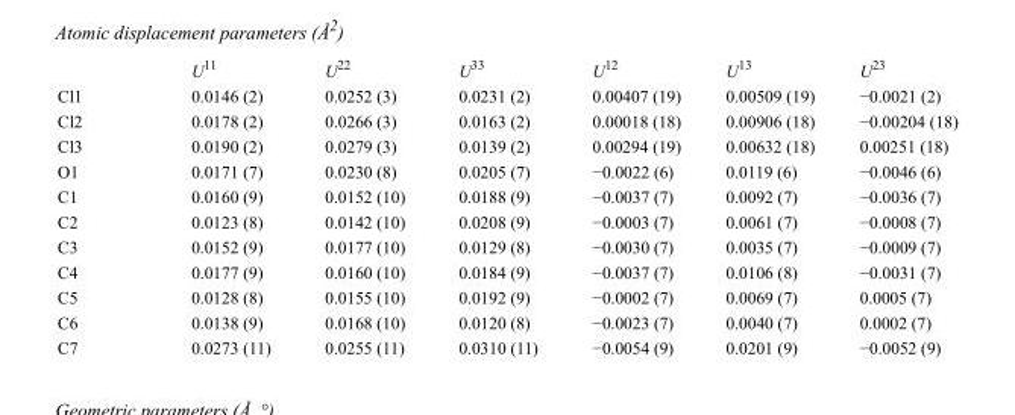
<table><thead><tr><td></td><td>U<sup>11</sup></td><td>U<sup>22</sup></td><td>U<sup>33</sup></td><td>U<sup>12</sup></td><td>U<sup>13</sup></td><td>U<sup>23</sup></td></tr></thead><tbody><tr><td>Cl1</td><td>0.0146 (2)</td><td>0.0252 (3)</td><td>0.0231 (2)</td><td>0.00407 (19)</td><td>0.00509 (19)</td><td>−0.0021 (2)</td></tr><tr><td>Cl2</td><td>0.0178 (2)</td><td>0.0266 (3)</td><td>0.0163 (2)</td><td>0.00018 (18)</td><td>0.00906 (18)</td><td>−0.00204 (18)</td></tr><tr><td>Cl3</td><td>0.0190 (2)</td><td>0.0279 (3)</td><td>0.0139 (2)</td><td>0.00294 (19)</td><td>0.00632 (18)</td><td>0.00251 (18)</td></tr><tr><td>O1</td><td>0.0171 (7)</td><td>0.0230 (8)</td><td>0.0205 (7)</td><td>−0.0022 (6)</td><td>0.0119 (6)</td><td>−0.0046 (6)</td></tr><tr><td>C1</td><td>0.0160 (9)</td><td>0.0152 (10)</td><td>0.0188 (9)</td><td>−0.0037 (7)</td><td>0.0092 (7)</td><td>−0.0036 (7)</td></tr><tr><td>C2</td><td>0.0123 (8)</td><td>0.0142 (10)</td><td>0.0208 (9)</td><td>−0.0003 (7)</td><td>0.0061 (7)</td><td>−0.0008 (7)</td></tr><tr><td>C3</td><td>0.0152 (9)</td><td>0.0177 (10)</td><td>0.0129 (8)</td><td>−0.0030 (7)</td><td>0.0035 (7)</td><td>−0.0009 (7)</td></tr><tr><td>C4</td><td>0.0177 (9)</td><td>0.0160 (10)</td><td>0.0184 (9)</td><td>−0.0037 (7)</td><td>0.0106 (8)</td><td>−0.0031 (7)</td></tr><tr><td>C5</td><td>0.0128 (8)</td><td>0.0155 (10)</td><td>0.0192 (9)</td><td>−0.0002 (7)</td><td>0.0069 (7)</td><td>0.0005 (7)</td></tr><tr><td>C6</td><td>0.0138 (9)</td><td>0.0168 (10)</td><td>0.0120 (8)</td><td>−0.0023 (7)</td><td>0.0040 (7)</td><td>0.0002 (7)</td></tr><tr><td>C7</td><td>0.0273 (11)</td><td>0.0255 (11)</td><td>0.0310 (11)</td><td>−0.0054 (9)</td><td>0.0201 (9)</td><td>−0.0052 (9)</td></tr></tbody></table>